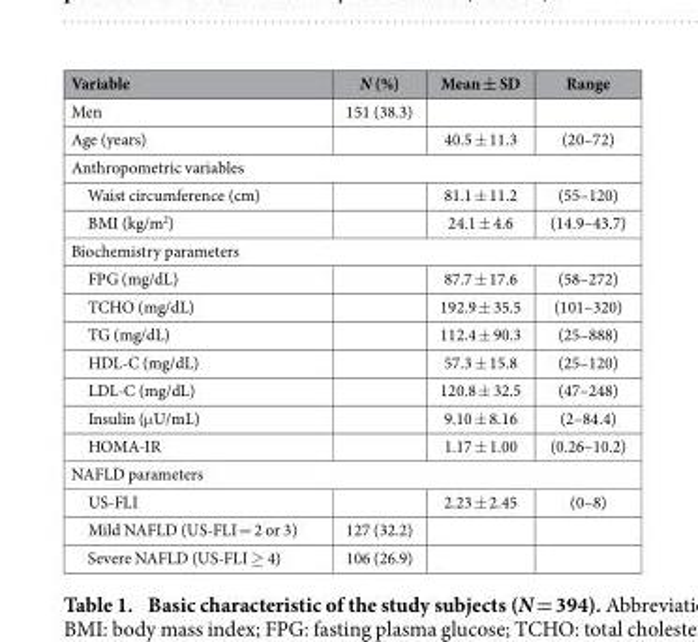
<table><thead><tr><td>Variable</td><td>N (%)</td><td>Mean ± SD</td><td>Range</td></tr></thead><tbody><tr><td>Men</td><td>151 (38.3)</td><td></td><td></td></tr><tr><td>Age (years)</td><td></td><td>40.5 ± 11.3</td><td>(20–72)</td></tr><tr><td colspan="4">Anthropometric variables</td></tr><tr><td>Waist circumference (cm)</td><td></td><td>81.1 ± 11.2</td><td>(55–120)</td></tr><tr><td>BMI (kg/m<sup>2</sup>)</td><td></td><td>24.1 ± 4.6</td><td>(14.9–43.7)</td></tr><tr><td colspan="4">Biochemistry parameters</td></tr><tr><td>FPG (mg/dL)</td><td></td><td>87.7 ± 17.6</td><td>(58–272)</td></tr><tr><td>TCHO (mg/dL)</td><td></td><td>192.9 ± 35.5</td><td>(101–320)</td></tr><tr><td>TG (mg/dL)</td><td></td><td>112.4 ± 90.3</td><td>(25–888)</td></tr><tr><td>HDL-C (mg/dL)</td><td></td><td>57.3 ± 15.8</td><td>(25–120)</td></tr><tr><td>LDL-C (mg/dL)</td><td></td><td>120.8 ± 32.5</td><td>(47–248)</td></tr><tr><td>Insulin (μ U/mL)</td><td></td><td>9.10 ± 8.16</td><td>(2–84.4)</td></tr><tr><td>HOMA-IR</td><td></td><td>1.17 ± 1.00</td><td>(0.26–10.2)</td></tr><tr><td colspan="4">NAFLD parameters</td></tr><tr><td>US-FLI</td><td></td><td>2.23 ± 2.45</td><td>(0–8)</td></tr><tr><td>Mild NAFLD (US-FLI = 2 or 3)</td><td>127 (32.2)</td><td></td><td></td></tr><tr><td>Severe NAFLD (US-FLI ≥ 4)</td><td>106 (26.9)</td><td></td><td></td></tr></tbody></table>